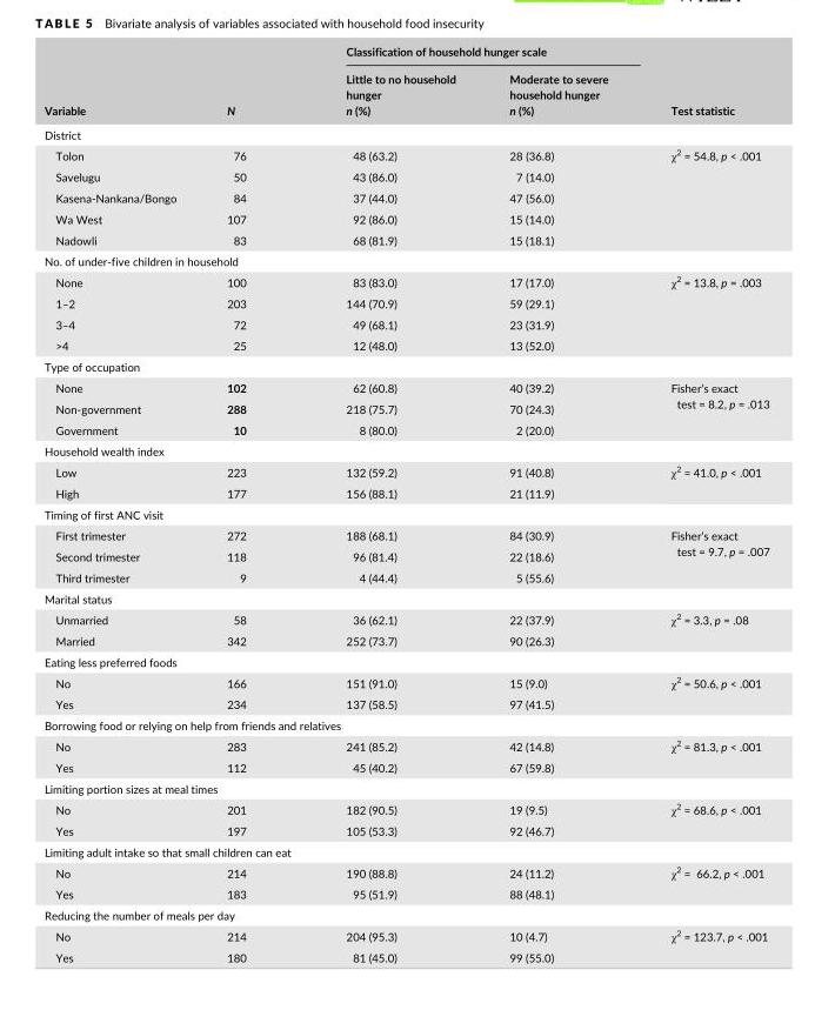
<table><thead><tr><td rowspan="2">Variable</td><td rowspan="2">N</td><td colspan="2">Classification of household hunger scale</td><td rowspan="2">Test statistic</td></tr><tr><td>Little to no household hunger n (%)</td><td>Moderate to severe household hunger n (%)</td></tr></thead><tbody><tr><td colspan="5">District</td></tr><tr><td>Tolon</td><td>76</td><td>48 (63.2)</td><td>28 (36.8)</td><td rowspan="5">χ<sup>2</sup> = 54.8, p &lt; .001</td></tr><tr><td>Savelugu</td><td>50</td><td>43 (86.0)</td><td>7 (14.0)</td></tr><tr><td>Kasena- Nankana/Bongo</td><td>84</td><td>37 (44.0)</td><td>47 (56.0)</td></tr><tr><td>Wa West</td><td>107</td><td>92 (86.0)</td><td>15 (14.0)</td></tr><tr><td>Nadowli</td><td>83</td><td>68 (81.9)</td><td>15 (18.1)</td></tr><tr><td colspan="5">No. of under- five children in household</td></tr><tr><td>None</td><td>100</td><td>83 (83.0)</td><td>17 (17.0)</td><td rowspan="4">χ<sup>2</sup> = 13.8, p = .003</td></tr><tr><td>1–2</td><td>203</td><td>144 (70.9)</td><td>59 (29.1)</td></tr><tr><td>3–4</td><td>72</td><td>49 (68.1)</td><td>23 (31.9)</td></tr><tr><td>&gt;4</td><td>25</td><td>12 (48.0)</td><td>13 (52.0)</td></tr><tr><td colspan="5">Type of occupation</td></tr><tr><td>None</td><td>102</td><td>62 (60.8)</td><td>40 (39.2)</td><td rowspan="3">Fisher’s exact test = 8.2, p = .013</td></tr><tr><td>Non- government</td><td>288</td><td>218 (75.7)</td><td>70 (24.3)</td></tr><tr><td>Government</td><td>10</td><td>8 (80.0)</td><td>2 (20.0)</td></tr><tr><td colspan="5">Household wealth index</td></tr><tr><td>Low</td><td>223</td><td>132 (59.2)</td><td>91 (40.8)</td><td rowspan="2">χ<sup>2</sup> = 41.0, p &lt; .001</td></tr><tr><td>High</td><td>177</td><td>156 (88.1)</td><td>21 (11.9)</td></tr><tr><td colspan="5">Timing of first ANC visit</td></tr><tr><td>First trimester</td><td>272</td><td>188 (68.1)</td><td>84 (30.9)</td><td rowspan="3">Fisher’s exact test = 9.7, p = .007</td></tr><tr><td>Second trimester</td><td>118</td><td>96 (81.4)</td><td>22 (18.6)</td></tr><tr><td>Third trimester</td><td>9</td><td>4 (44.4)</td><td>5 (55.6)</td></tr><tr><td colspan="5">Marital status</td></tr><tr><td>Unmarried</td><td>58</td><td>36 (62.1)</td><td>22 (37.9)</td><td rowspan="2">χ<sup>2</sup> = 3.3, p = .08</td></tr><tr><td>Married</td><td>342</td><td>252 (73.7)</td><td>90 (26.3)</td></tr><tr><td colspan="5">Eating less preferred foods</td></tr><tr><td>No</td><td>166</td><td>151 (91.0)</td><td>15 (9.0)</td><td rowspan="2">χ<sup>2</sup> = 50.6, p &lt; .001</td></tr><tr><td>Yes</td><td>234</td><td>137 (58.5)</td><td>97 (41.5)</td></tr><tr><td colspan="5">Borrowing food or relying on help from friends and relatives</td></tr><tr><td>No</td><td>283</td><td>241 (85.2)</td><td>42 (14.8)</td><td rowspan="2">χ<sup>2</sup> = 81.3, p &lt; .001</td></tr><tr><td>Yes</td><td>112</td><td>45 (40.2)</td><td>67 (59.8)</td></tr><tr><td colspan="5">Limiting portion sizes at meal times</td></tr><tr><td>No</td><td>201</td><td>182 (90.5)</td><td>19 (9.5)</td><td rowspan="2">χ<sup>2</sup> = 68.6, p &lt; .001</td></tr><tr><td>Yes</td><td>197</td><td>105 (53.3)</td><td>92 (46.7)</td></tr><tr><td colspan="5">Limiting adult intake so that small children can eat</td></tr><tr><td>No</td><td>214</td><td>190 (88.8)</td><td>24 (11.2)</td><td rowspan="2">χ<sup>2</sup> = 66.2, p &lt; .001</td></tr><tr><td>Yes</td><td>183</td><td>95 (51.9)</td><td>88 (48.1)</td></tr><tr><td colspan="5">Reducing the number of meals per day</td></tr><tr><td>No</td><td>214</td><td>204 (95.3)</td><td>10 (4.7)</td><td rowspan="2">χ<sup>2</sup> = 123.7, p &lt; .001</td></tr><tr><td>Yes</td><td>180</td><td>81 (45.0)</td><td>99 (55.0)</td></tr></tbody></table>